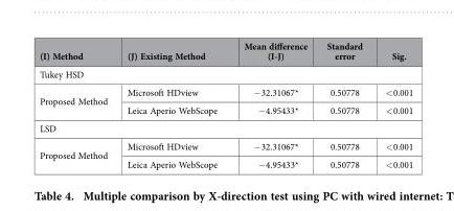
<table><thead><tr><td>(I) Method</td><td>(J) Existing Method</td><td>Mean difference (I-J)</td><td>Standard error</td><td>Sig.</td></tr></thead><tbody><tr><td colspan="5">Tukey HSD</td></tr><tr><td rowspan="2">Proposed Method</td><td>Microsoft HDview</td><td>− 32.31067*</td><td>0.50778</td><td>&lt; 0.001</td></tr><tr><td>Leica Aperio WebScope</td><td>− 4.95433*</td><td>0.50778</td><td>&lt; 0.001</td></tr><tr><td colspan="5">LSD</td></tr><tr><td rowspan="2">Proposed Method</td><td>Microsoft HDview</td><td>− 32.31067*</td><td>0.50778</td><td>&lt; 0.001</td></tr><tr><td>Leica Aperio WebScope</td><td>− 4.95433*</td><td>0.50778</td><td>&lt; 0.001</td></tr></tbody></table>